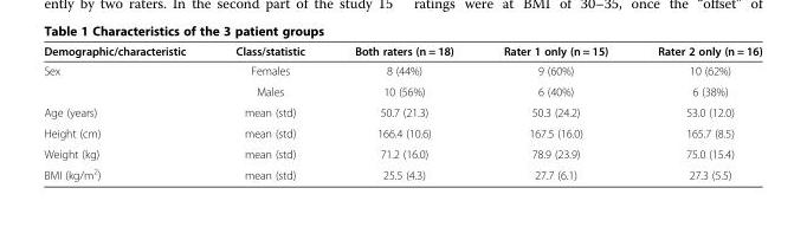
<table><thead><tr><td>Demographic/characteristic</td><td>Class/statistic</td><td>Both raters (n = 18)</td><td>Rater 1 only (n = 15)</td><td>Rater 2 only (n = 16)</td></tr></thead><tbody><tr><td rowspan="2">Sex</td><td>Females</td><td>8 (44%)</td><td>9 (60%)</td><td>10 (62%)</td></tr><tr><td>Males</td><td>10 (56%)</td><td>6 (40%)</td><td>6 (38%)</td></tr><tr><td>Age (years)</td><td>mean (std)</td><td>50.7 (21.3)</td><td>50.3 (24.2)</td><td>53.0 (12.0)</td></tr><tr><td>Height (cm)</td><td>mean (std)</td><td>166.4 (10.6)</td><td>167.5 (16.0)</td><td>165.7 (8.5)</td></tr><tr><td>Weight (kg)</td><td>mean (std)</td><td>71.2 (16.0)</td><td>78.9 (23.9)</td><td>75.0 (15.4)</td></tr><tr><td>BMI (kg/m<sup>2</sup>)</td><td>mean (std)</td><td>25.5 (4.3)</td><td>27.7 (6.1)</td><td>27.3 (5.5)</td></tr></tbody></table>